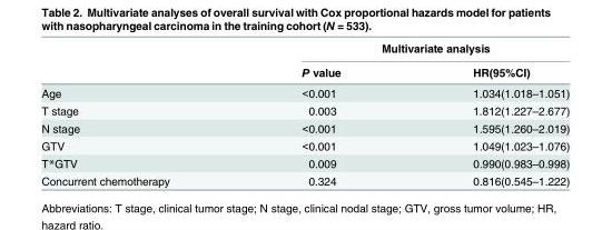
<table><thead><tr><td rowspan="2"></td><td colspan="2">Multivariate analysis</td></tr><tr><td>P value</td><td>HR(95%CI)</td></tr></thead><tbody><tr><td>Age</td><td>&lt;0.001</td><td>1.034(1.018–1.051)</td></tr><tr><td>T stage</td><td>0.003</td><td>1.812(1.227–2.677)</td></tr><tr><td>N stage</td><td>&lt;0.001</td><td>1.595(1.260–2.019)</td></tr><tr><td>GTV</td><td>&lt;0.001</td><td>1.049(1.023–1.076)</td></tr><tr><td>T*GTV</td><td>0.009</td><td>0.990(0.983–0.998)</td></tr><tr><td>Concurrent chemotherapy</td><td>0.324</td><td>0.816(0.545–1.222)</td></tr></tbody></table>